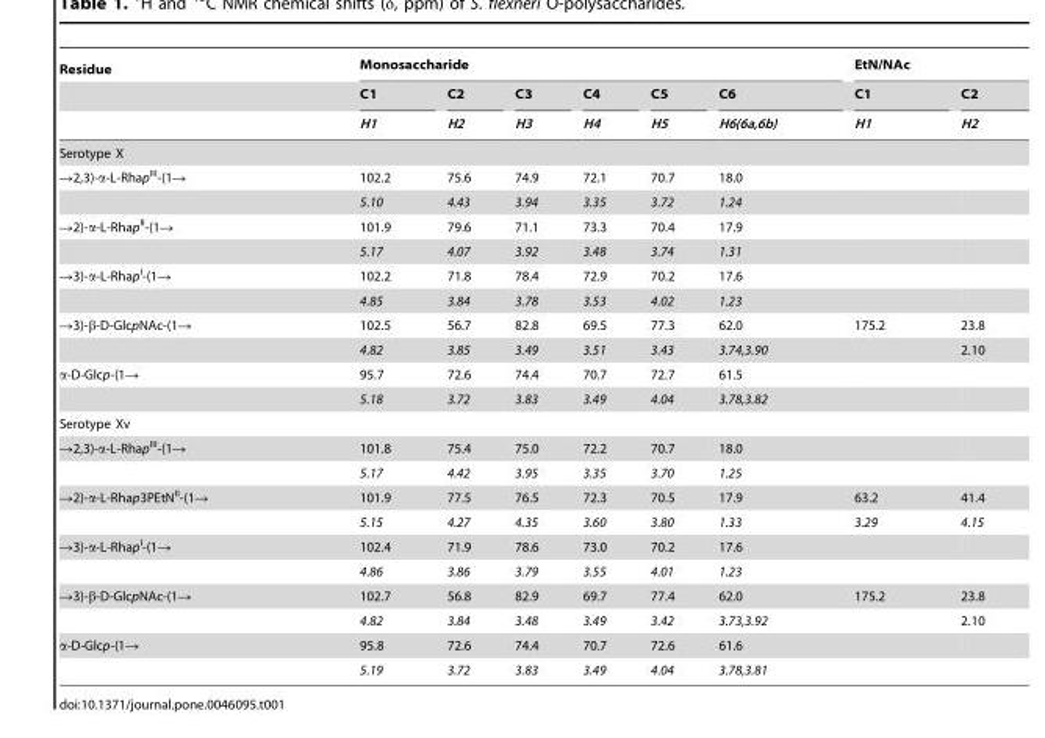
<table><thead><tr><td rowspan="3">Residue</td><td colspan="6">Monosaccharide</td><td colspan="2">EtN/NAc</td></tr><tr><td rowspan="2">C1 H1</td><td rowspan="2">C2 H2</td><td rowspan="2">C3 H3</td><td rowspan="2">C4 H4</td><td rowspan="2">C5 H5</td><td rowspan="2">C6 H6(6a,6b)</td><td rowspan="2">C1 H1</td><td rowspan="2">C2 H2</td></tr><tr></tr></thead><tbody><tr><td colspan="9">Serotype X</td></tr><tr><td rowspan="2">→2,3)-α-L-Rhap<sup>III</sup>-(1→</td><td>102.2</td><td>75.6</td><td>74.9</td><td>72.1</td><td>70.7</td><td>18.0</td><td></td><td></td></tr><tr><td>5.10</td><td>4.43</td><td>3.94</td><td>3.35</td><td>3.72</td><td>1.24</td><td></td><td></td></tr><tr><td rowspan="2">→2)-α-L-Rhap<sup>II</sup>-(1→</td><td>101.9</td><td>79.6</td><td>71.1</td><td>73.3</td><td>70.4</td><td>17.9</td><td></td><td></td></tr><tr><td>5.17</td><td>4.07</td><td>3.92</td><td>3.48</td><td>3.74</td><td>1.31</td><td></td><td></td></tr><tr><td rowspan="2">→3)-α-L-Rhap<sup>I</sup>-(1→</td><td>102.2</td><td>71.8</td><td>78.4</td><td>72.9</td><td>70.2</td><td>17.6</td><td></td><td></td></tr><tr><td>4.85</td><td>3.84</td><td>3.78</td><td>3.53</td><td>4.02</td><td>1.23</td><td></td><td></td></tr><tr><td rowspan="2">→3)-β-D-GlcpNAc-(1→</td><td>102.5</td><td>56.7</td><td>82.8</td><td>69.5</td><td>77.3</td><td>62.0</td><td>175.2</td><td>23.8</td></tr><tr><td>4.82</td><td>3.85</td><td>3.49</td><td>3.51</td><td>3.43</td><td>3.74,3.90</td><td></td><td>2.10</td></tr><tr><td rowspan="2">α-D-Glcp-(1→</td><td>95.7</td><td>72.6</td><td>74.4</td><td>70.7</td><td>72.7</td><td>61.5</td><td></td><td></td></tr><tr><td>5.18</td><td>3.72</td><td>3.83</td><td>3.49</td><td>4.04</td><td>3.78,3.82</td><td></td><td></td></tr><tr><td colspan="9">Serotype Xv</td></tr><tr><td rowspan="2">→2,3)-α-L-Rhap<sup>III</sup>-(1→</td><td>101.8</td><td>75.4</td><td>75.0</td><td>72.2</td><td>70.7</td><td>18.0</td><td></td><td></td></tr><tr><td>5.17</td><td>4.42</td><td>3.95</td><td>3.35</td><td>3.70</td><td>1.25</td><td></td><td></td></tr><tr><td rowspan="2">→2)-α-L-Rhap3PEtN<sup>II</sup>-(1→</td><td>101.9</td><td>77.5</td><td>76.5</td><td>72.3</td><td>70.5</td><td>17.9</td><td>63.2</td><td>41.4</td></tr><tr><td>5.15</td><td>4.27</td><td>4.35</td><td>3.60</td><td>3.80</td><td>1.33</td><td>3.29</td><td>4.15</td></tr><tr><td rowspan="2">→3)-α-L-Rhap<sup>I</sup>-(1→</td><td>102.4</td><td>71.9</td><td>78.6</td><td>73.0</td><td>70.2</td><td>17.6</td><td></td><td></td></tr><tr><td>4.86</td><td>3.86</td><td>3.79</td><td>3.55</td><td>4.01</td><td>1.23</td><td></td><td></td></tr><tr><td rowspan="2">→3)-β-D-GlcpNAc-(1→</td><td>102.7</td><td>56.8</td><td>82.9</td><td>69.7</td><td>77.4</td><td>62.0</td><td>175.2</td><td>23.8</td></tr><tr><td>4.82</td><td>3.84</td><td>3.48</td><td>3.49</td><td>3.42</td><td>3.73,3.92</td><td></td><td>2.10</td></tr><tr><td rowspan="2">α-D-Glcp-(1→</td><td>95.8</td><td>72.6</td><td>74.4</td><td>70.7</td><td>72.6</td><td>61.6</td><td></td><td></td></tr><tr><td>5.19</td><td>3.72</td><td>3.83</td><td>3.49</td><td>4.04</td><td>3.78,3.81</td><td></td><td></td></tr></tbody></table>